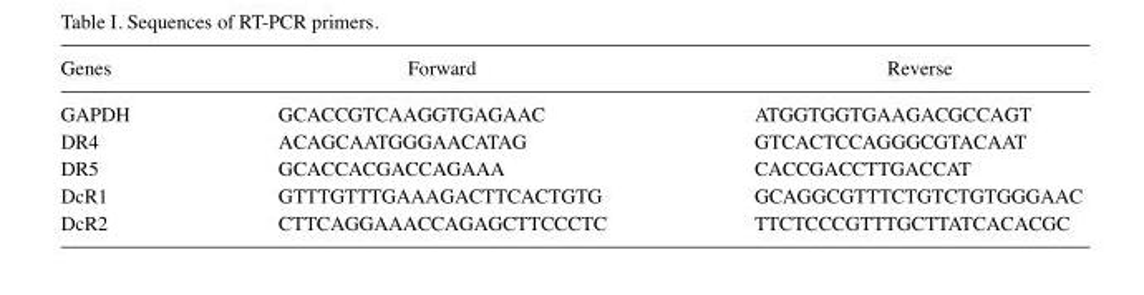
<table><thead><tr><td>Genes</td><td>Forward</td><td>Reverse</td></tr></thead><tbody><tr><td>GAPDH</td><td>GCACCGTCAAGGTGAGAAC</td><td>ATGGTGGTGAAGACGCCAGT</td></tr><tr><td>DR4</td><td>ACAGCAATGGGAACATAG</td><td>GTCACTCCAGGGCGTACAAT</td></tr><tr><td>DR5</td><td>GCACCACGACCAGAAA</td><td>CACCGACCTTGACCAT</td></tr><tr><td>DcR1</td><td>GTTTGTTTGAAAGACTTCACTGTG</td><td>GCAGGCGTTTCTGTCTGTGGGAAC</td></tr><tr><td>DcR2</td><td>CTTCAGGAAACCAGAGCTTCCCTC</td><td>TTCTCCCGTTTGCTTATCACACGC</td></tr></tbody></table>